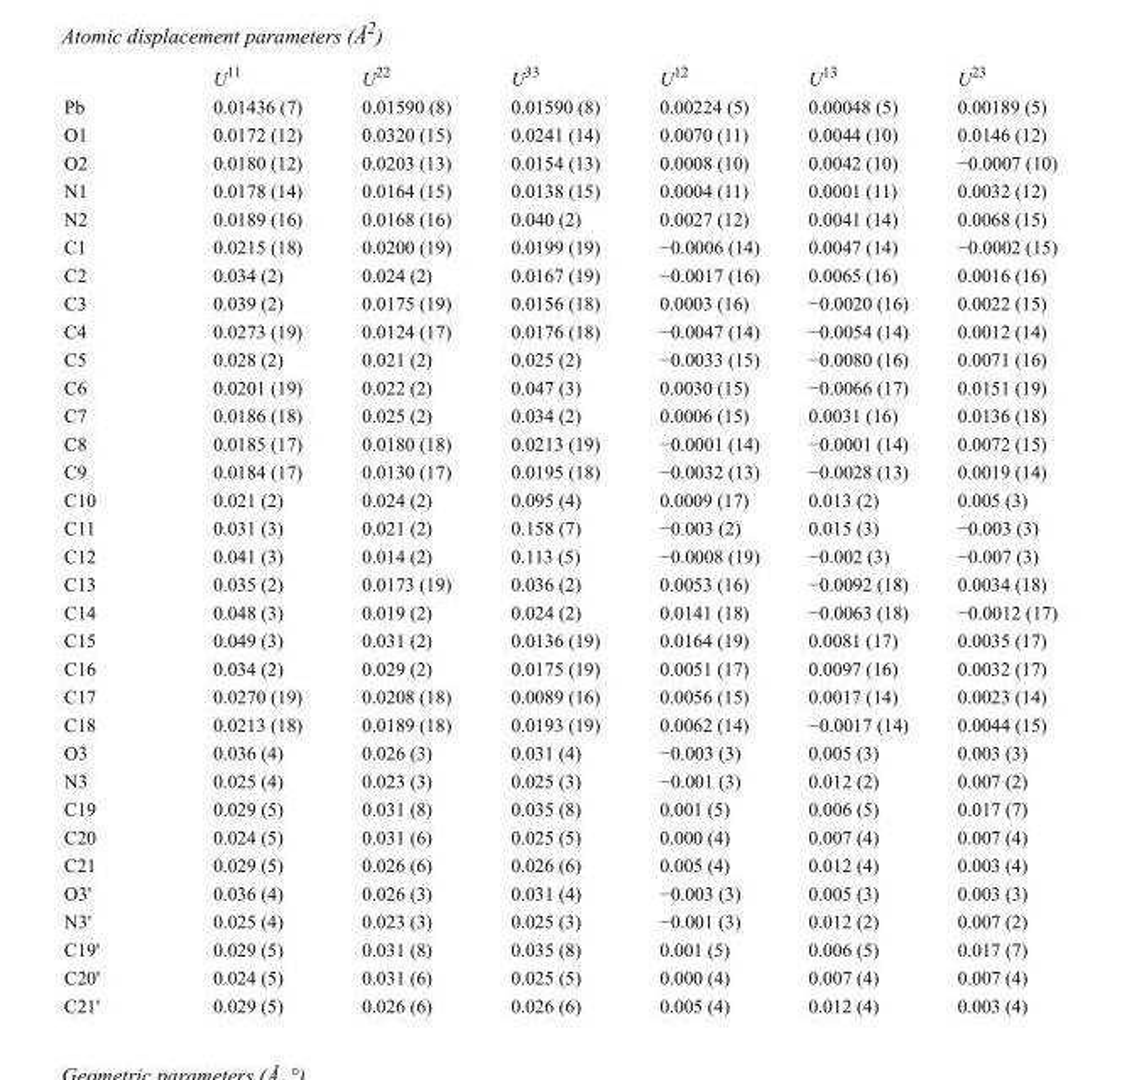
<table><thead><tr><td></td><td>U<sup>11</sup></td><td>U<sup>22</sup></td><td>U<sup>33</sup></td><td>U<sup>12</sup></td><td>U<sup>13</sup></td><td>U<sup>23</sup></td></tr></thead><tbody><tr><td>Pb</td><td>0.01436 (7)</td><td>0.01590 (8)</td><td>0.01590 (8)</td><td>0.00224 (5)</td><td>0.00048 (5)</td><td>0.00189 (5)</td></tr><tr><td>O1</td><td>0.0172 (12)</td><td>0.0320 (15)</td><td>0.0241 (14)</td><td>0.0070 (11)</td><td>0.0044 (10)</td><td>0.0146 (12)</td></tr><tr><td>O2</td><td>0.0180 (12)</td><td>0.0203 (13)</td><td>0.0154 (13)</td><td>0.0008 (10)</td><td>0.0042 (10)</td><td>−0.0007 (10)</td></tr><tr><td>N1</td><td>0.0178 (14)</td><td>0.0164 (15)</td><td>0.0138 (15)</td><td>0.0004 (11)</td><td>0.0001 (11)</td><td>0.0032 (12)</td></tr><tr><td>N2</td><td>0.0189 (16)</td><td>0.0168 (16)</td><td>0.040 (2)</td><td>0.0027 (12)</td><td>0.0041 (14)</td><td>0.0068 (15)</td></tr><tr><td>C1</td><td>0.0215 (18)</td><td>0.0200 (19)</td><td>0.0199 (19)</td><td>−0.0006 (14)</td><td>0.0047 (14)</td><td>−0.0002 (15)</td></tr><tr><td>C2</td><td>0.034 (2)</td><td>0.024 (2)</td><td>0.0167 (19)</td><td>−0.0017 (16)</td><td>0.0065 (16)</td><td>0.0016 (16)</td></tr><tr><td>C3</td><td>0.039 (2)</td><td>0.0175 (19)</td><td>0.0156 (18)</td><td>0.0003 (16)</td><td>−0.0020 (16)</td><td>0.0022 (15)</td></tr><tr><td>C4</td><td>0.0273 (19)</td><td>0.0124 (17)</td><td>0.0176 (18)</td><td>−0.0047 (14)</td><td>−0.0054 (14)</td><td>0.0012 (14)</td></tr><tr><td>C5</td><td>0.028 (2)</td><td>0.021 (2)</td><td>0.025 (2)</td><td>−0.0033 (15)</td><td>−0.0080 (16)</td><td>0.0071 (16)</td></tr><tr><td>C6</td><td>0.0201 (19)</td><td>0.022 (2)</td><td>0.047 (3)</td><td>0.0030 (15)</td><td>−0.0066 (17)</td><td>0.0151 (19)</td></tr><tr><td>C7</td><td>0.0186 (18)</td><td>0.025 (2)</td><td>0.034 (2)</td><td>0.0006 (15)</td><td>0.0031 (16)</td><td>0.0136 (18)</td></tr><tr><td>C8</td><td>0.0185 (17)</td><td>0.0180 (18)</td><td>0.0213 (19)</td><td>−0.0001 (14)</td><td>−0.0001 (14)</td><td>0.0072 (15)</td></tr><tr><td>C9</td><td>0.0184 (17)</td><td>0.0130 (17)</td><td>0.0195 (18)</td><td>−0.0032 (13)</td><td>−0.0028 (13)</td><td>0.0019 (14)</td></tr><tr><td>C10</td><td>0.021 (2)</td><td>0.024 (2)</td><td>0.095 (4)</td><td>0.0009 (17)</td><td>0.013 (2)</td><td>0.005 (3)</td></tr><tr><td>C11</td><td>0.031 (3)</td><td>0.021 (2)</td><td>0.158 (7)</td><td>−0.003 (2)</td><td>0.015 (3)</td><td>−0.003 (3)</td></tr><tr><td>C12</td><td>0.041 (3)</td><td>0.014 (2)</td><td>0.113 (5)</td><td>−0.0008 (19)</td><td>−0.002 (3)</td><td>−0.007 (3)</td></tr><tr><td>C13</td><td>0.035 (2)</td><td>0.0173 (19)</td><td>0.036 (2)</td><td>0.0053 (16)</td><td>−0.0092 (18)</td><td>0.0034 (18)</td></tr><tr><td>C14</td><td>0.048 (3)</td><td>0.019 (2)</td><td>0.024 (2)</td><td>0.0141 (18)</td><td>−0.0063 (18)</td><td>−0.0012 (17)</td></tr><tr><td>C15</td><td>0.049 (3)</td><td>0.031 (2)</td><td>0.0136 (19)</td><td>0.0164 (19)</td><td>0.0081 (17)</td><td>0.0035 (17)</td></tr><tr><td>C16</td><td>0.034 (2)</td><td>0.029 (2)</td><td>0.0175 (19)</td><td>0.0051 (17)</td><td>0.0097 (16)</td><td>0.0032 (17)</td></tr><tr><td>C17</td><td>0.0270 (19)</td><td>0.0208 (18)</td><td>0.0089 (16)</td><td>0.0056 (15)</td><td>0.0017 (14)</td><td>0.0023 (14)</td></tr><tr><td>C18</td><td>0.0213 (18)</td><td>0.0189 (18)</td><td>0.0193 (19)</td><td>0.0062 (14)</td><td>−0.0017 (14)</td><td>0.0044 (15)</td></tr><tr><td>O3</td><td>0.036 (4)</td><td>0.026 (3)</td><td>0.031 (4)</td><td>−0.003 (3)</td><td>0.005 (3)</td><td>0.003 (3)</td></tr><tr><td>N3</td><td>0.025 (4)</td><td>0.023 (3)</td><td>0.025 (3)</td><td>−0.001 (3)</td><td>0.012 (2)</td><td>0.007 (2)</td></tr><tr><td>C19</td><td>0.029 (5)</td><td>0.031 (8)</td><td>0.035 (8)</td><td>0.001 (5)</td><td>0.006 (5)</td><td>0.017 (7)</td></tr><tr><td>C20</td><td>0.024 (5)</td><td>0.031 (6)</td><td>0.025 (5)</td><td>0.000 (4)</td><td>0.007 (4)</td><td>0.007 (4)</td></tr><tr><td>C21</td><td>0.029 (5)</td><td>0.026 (6)</td><td>0.026 (6)</td><td>0.005 (4)</td><td>0.012 (4)</td><td>0.003 (4)</td></tr><tr><td>O3&#x27;</td><td>0.036 (4)</td><td>0.026 (3)</td><td>0.031 (4)</td><td>−0.003 (3)</td><td>0.005 (3)</td><td>0.003 (3)</td></tr><tr><td>N3&#x27;</td><td>0.025 (4)</td><td>0.023 (3)</td><td>0.025 (3)</td><td>−0.001 (3)</td><td>0.012 (2)</td><td>0.007 (2)</td></tr><tr><td>C19&#x27;</td><td>0.029 (5)</td><td>0.031 (8)</td><td>0.035 (8)</td><td>0.001 (5)</td><td>0.006 (5)</td><td>0.017 (7)</td></tr><tr><td>C20&#x27;</td><td>0.024 (5)</td><td>0.031 (6)</td><td>0.025 (5)</td><td>0.000 (4)</td><td>0.007 (4)</td><td>0.007 (4)</td></tr><tr><td>C21&#x27;</td><td>0.029 (5)</td><td>0.026 (6)</td><td>0.026 (6)</td><td>0.005 (4)</td><td>0.012 (4)</td><td>0.003 (4)</td></tr></tbody></table>